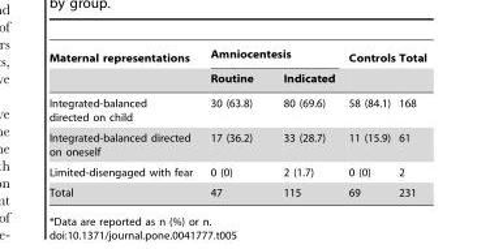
<table><thead><tr><td rowspan="2">Maternal representations</td><td colspan="2">Amniocentesis</td><td rowspan="2">Controls</td><td rowspan="2">Total</td></tr><tr><td>Routine</td><td>Indicated</td></tr></thead><tbody><tr><td>Integrated-balanced directed on child</td><td>30 (63.8)</td><td>80 (69.6)</td><td>58 (84.1)</td><td>168</td></tr><tr><td>Integrated-balanced directed on oneself</td><td>17 (36.2)</td><td>33 (28.7)</td><td>11 (15.9)</td><td>61</td></tr><tr><td>Limited-disengaged with fear</td><td>0 (0)</td><td>2 (1.7)</td><td>0 (0)</td><td>2</td></tr><tr><td>Total</td><td>47</td><td>115</td><td>69</td><td>231</td></tr></tbody></table>